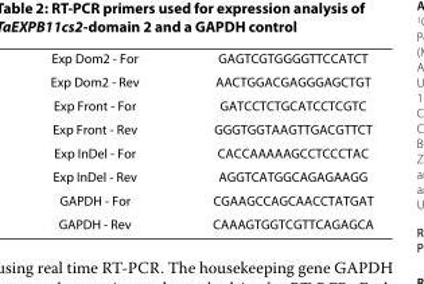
<table><tbody><tr><td>Exp Dom2 - For</td><td>GAGTCGTGGGGTTCCATCT</td></tr><tr><td>Exp Dom2 - Rev</td><td>AACTGGACGAGGGAGCTGT</td></tr><tr><td>Exp Front - For</td><td>GATCCTCTGCATCCTCGTC</td></tr><tr><td>Exp Front - Rev</td><td>GGGTGGTAAGTTGACGTTCT</td></tr><tr><td>Exp InDel - For</td><td>CACCAAAAAGCCTCCCTAC</td></tr><tr><td>Exp InDel - Rev</td><td>AGGTCATGGCAGAGAAGG</td></tr><tr><td>GAPDH - For</td><td>CGAAGCCAGCAACCTATGAT</td></tr><tr><td>GAPDH - Rev</td><td>CAAAGTGGTCGTTCAGAGCA</td></tr></tbody></table>